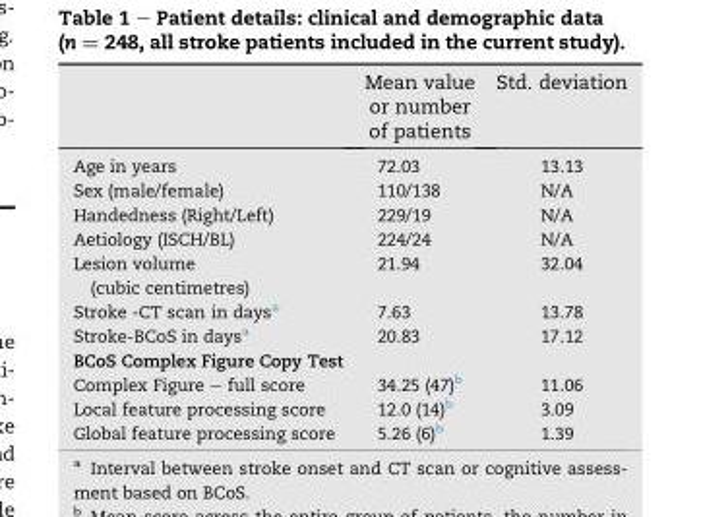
<table><thead><tr><td></td><td>Mean value or number of patients</td><td>Std. deviation</td></tr></thead><tbody><tr><td>Age in years</td><td>72.03</td><td>13.13</td></tr><tr><td>Sex (male/female)</td><td>110/138</td><td>N/A</td></tr><tr><td>Handedness (Right/Left)</td><td>229/19</td><td>N/A</td></tr><tr><td>Aetiology (ISCH/BL)</td><td>224/24</td><td>N/A</td></tr><tr><td>Lesion volume (cubic centimetres)</td><td>21.94</td><td>32.04</td></tr><tr><td>Stroke -CT scan in days<sup>a</sup></td><td>7.63</td><td>13.78</td></tr><tr><td>Stroke-BCoS in days<sup>a</sup></td><td>20.83</td><td>17.12</td></tr><tr><td colspan="3">BCoS Complex Figure Copy Test</td></tr><tr><td>Complex Figure – full score</td><td>34.25 (47)<sup>b</sup></td><td>11.06</td></tr><tr><td>Local feature processing score</td><td>12.0 (14)<sup>b</sup></td><td>3.09</td></tr><tr><td>Global feature processing score</td><td>5.26 (6)<sup>b</sup></td><td>1.39</td></tr></tbody></table>